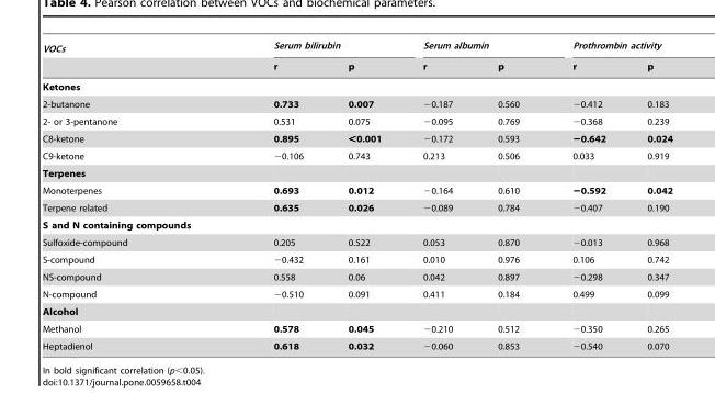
<table><thead><tr><td rowspan="2">VOCs</td><td colspan="2">Serum bilirubin</td><td colspan="2">Serum albumin</td><td colspan="2">Prothrombin activity</td></tr><tr><td>r</td><td>p</td><td>r</td><td>p</td><td>r</td><td>p</td></tr></thead><tbody><tr><td colspan="7">Ketones</td></tr><tr><td>2-butanone</td><td>0.733</td><td>0.007</td><td>−0.187</td><td>0.560</td><td>−0.412</td><td>0.183</td></tr><tr><td>2- or 3-pentanone</td><td>0.531</td><td>0.075</td><td>−0.095</td><td>0.769</td><td>−0.368</td><td>0.239</td></tr><tr><td>C8-ketone</td><td>0.895</td><td>&lt;0.001</td><td>−0.172</td><td>0.593</td><td>−0.642</td><td>0.024</td></tr><tr><td>C9-ketone</td><td>−0.106</td><td>0.743</td><td>0.213</td><td>0.506</td><td>0.033</td><td>0.919</td></tr><tr><td colspan="7">Terpenes</td></tr><tr><td>Monoterpenes</td><td>0.693</td><td>0.012</td><td>−0.164</td><td>0.610</td><td>−0.592</td><td>0.042</td></tr><tr><td>Terpene related</td><td>0.635</td><td>0.026</td><td>−0.089</td><td>0.784</td><td>−0.407</td><td>0.190</td></tr><tr><td colspan="7">S and N containing compounds</td></tr><tr><td>Sulfoxide-compound</td><td>0.205</td><td>0.522</td><td>0.053</td><td>0.870</td><td>−0.013</td><td>0.968</td></tr><tr><td>S-compound</td><td>−0.432</td><td>0.161</td><td>0.010</td><td>0.976</td><td>0.106</td><td>0.742</td></tr><tr><td>NS-compound</td><td>0.558</td><td>0.06</td><td>0.042</td><td>0.897</td><td>−0.298</td><td>0.347</td></tr><tr><td>N-compound</td><td>−0.510</td><td>0.091</td><td>0.411</td><td>0.184</td><td>0.499</td><td>0.099</td></tr><tr><td colspan="7">Alcohol</td></tr><tr><td>Methanol</td><td>0.578</td><td>0.045</td><td>−0.210</td><td>0.512</td><td>−0.350</td><td>0.265</td></tr><tr><td>Heptadienol</td><td>0.618</td><td>0.032</td><td>−0.060</td><td>0.853</td><td>−0.540</td><td>0.070</td></tr></tbody></table>